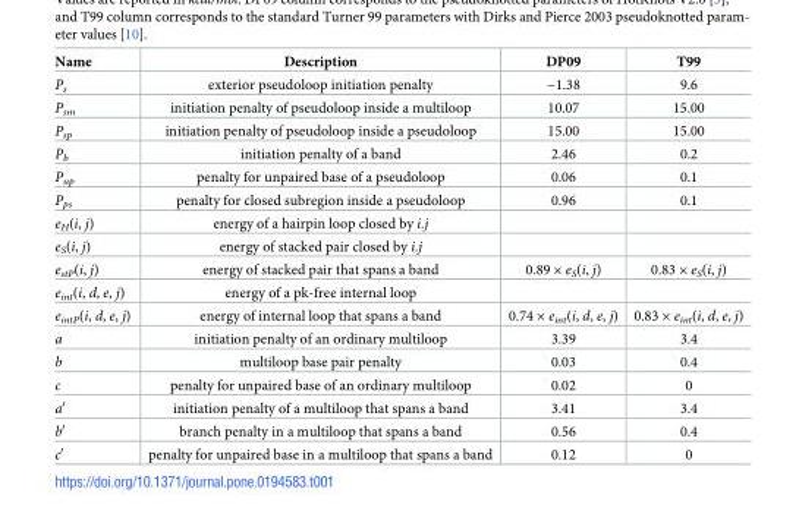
<table><thead><tr><td>Name</td><td>Description</td><td>DP09</td><td>T99</td></tr></thead><tbody><tr><td>P<sub>s</sub></td><td>exterior pseudoloop initiation penalty</td><td>−1.38</td><td>9.6</td></tr><tr><td>P<sub>sm</sub></td><td>initiation penalty of pseudoloop inside a multiloop</td><td>10.07</td><td>15.00</td></tr><tr><td>P<sub>sp</sub></td><td>initiation penalty of pseudoloop inside a pseudoloop</td><td>15.00</td><td>15.00</td></tr><tr><td>P<sub>b</sub></td><td>initiation penalty of a band</td><td>2.46</td><td>0.2</td></tr><tr><td>P<sub>up</sub></td><td>penalty for unpaired base of a pseudoloop</td><td>0.06</td><td>0.1</td></tr><tr><td>P<sub>ps</sub></td><td>penalty for closed subregion inside a pseudoloop</td><td>0.96</td><td>0.1</td></tr><tr><td>e<sub>H</sub>(i, j)</td><td>energy of a hairpin loop closed by i.j</td><td></td><td></td></tr><tr><td>e<sub>S</sub>(i, j)</td><td>energy of stacked pair closed by i.j</td><td></td><td></td></tr><tr><td>e<sub>stP</sub>(i, j)</td><td>energy of stacked pair that spans a band</td><td>0.89 × e<sub>S</sub>(i, j)</td><td>0.83 × e<sub>S</sub>(i, j)</td></tr><tr><td>e<sub>int</sub>(i, d, e, j)</td><td>energy of a pk-free internal loop</td><td></td><td></td></tr><tr><td>e<sub>intP</sub>(i, d, e, j)</td><td>energy of internal loop that spans a band</td><td>0.74 × e<sub>int</sub>(i, d, e, j)</td><td>0.83 × e<sub>int</sub>(i, d, e, j)</td></tr><tr><td>a</td><td>initiation penalty of an ordinary multiloop</td><td>3.39</td><td>3.4</td></tr><tr><td>b</td><td>multiloop base pair penalty</td><td>0.03</td><td>0.4</td></tr><tr><td>c</td><td>penalty for unpaired base of an ordinary multiloop</td><td>0.02</td><td>0</td></tr><tr><td>a′</td><td>initiation penalty of a multiloop that spans a band</td><td>3.41</td><td>3.4</td></tr><tr><td>b′</td><td>branch penalty in a multiloop that spans a band</td><td>0.56</td><td>0.4</td></tr><tr><td>c′</td><td>penalty for unpaired base in a multiloop that spans a band</td><td>0.12</td><td>0</td></tr></tbody></table>